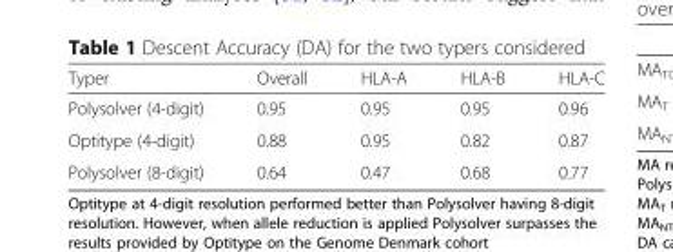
<table><thead><tr><td>Typer</td><td>Overall</td><td>HLA-A</td><td>HLA-B</td><td>HLA-C</td></tr></thead><tbody><tr><td>Polysolver (4-digit)</td><td>0.95</td><td>0.95</td><td>0.95</td><td>0.96</td></tr><tr><td>Optitype (4-digit)</td><td>0.88</td><td>0.95</td><td>0.82</td><td>0.87</td></tr><tr><td>Polysolver (8-digit)</td><td>0.64</td><td>0.47</td><td>0.68</td><td>0.77</td></tr></tbody></table>